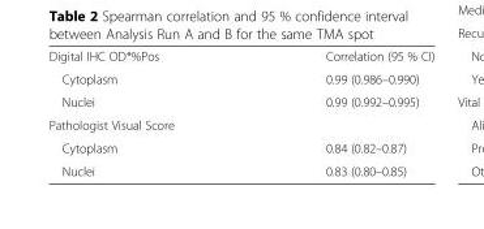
<table><tbody><tr><td>Digital IHC OD*%Pos</td><td>Correlation (95 % CI)</td></tr><tr><td>Cytoplasm</td><td>0.99 (0.986–0.990)</td></tr><tr><td>Nuclei</td><td>0.99 (0.992–0.995)</td></tr><tr><td colspan="2">Pathologist Visual Score</td></tr><tr><td>Cytoplasm</td><td>0.84 (0.82–0.87)</td></tr><tr><td>Nuclei</td><td>0.83 (0.80–0.85)</td></tr></tbody></table>